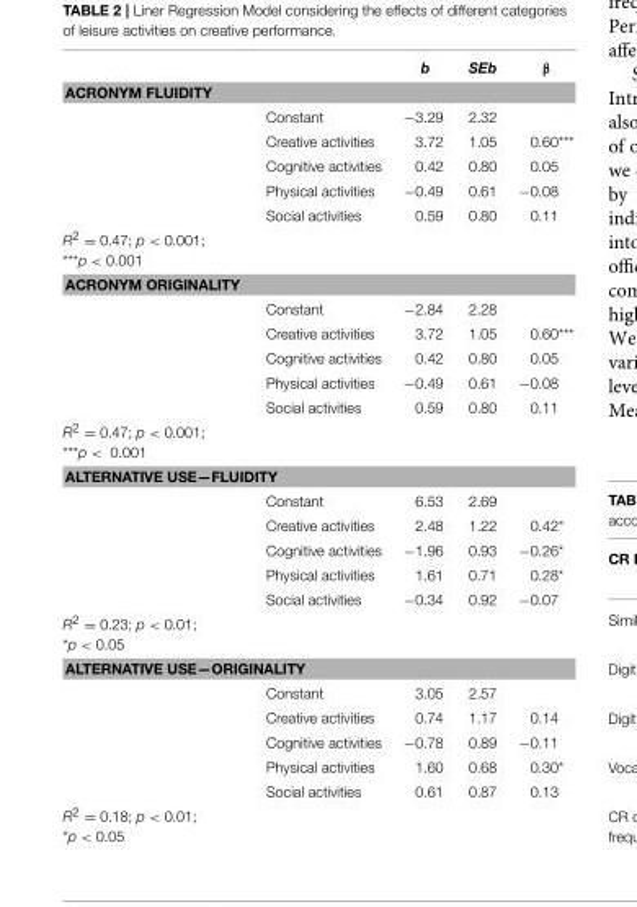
<table><thead><tr><td></td><td></td><td>b</td><td>SEb</td><td>β</td></tr><tr><td colspan="5">ACRONYM FLUIDITY</td></tr></thead><tbody><tr><td></td><td>Constant</td><td>−3.29</td><td>2.32</td><td></td></tr><tr><td></td><td>Creative activities</td><td>3.72</td><td>1.05</td><td>0.60***</td></tr><tr><td></td><td>Cognitive activities</td><td>0.42</td><td>0.80</td><td>0.05</td></tr><tr><td></td><td>Physical activities</td><td>−0.49</td><td>0.61</td><td>−0.08</td></tr><tr><td></td><td>Social activities</td><td>0.59</td><td>0.80</td><td>0.11</td></tr><tr><td colspan="5">R<sup>2</sup> = 0.47; p &lt; 0.001; ***p &lt; 0.001</td></tr><tr><td colspan="5">ACRONYM ORIGINALITY</td></tr><tr><td></td><td>Constant</td><td>−2.84</td><td>2.28</td><td></td></tr><tr><td></td><td>Creative activities</td><td>3.72</td><td>1.05</td><td>0.60***</td></tr><tr><td></td><td>Cognitive activities</td><td>0.42</td><td>0.80</td><td>0.05</td></tr><tr><td></td><td>Physical activities</td><td>−0.49</td><td>0.61</td><td>−0.08</td></tr><tr><td></td><td>Social activities</td><td>0.59</td><td>0.80</td><td>0.11</td></tr><tr><td colspan="5">R<sup>2</sup> = 0.47; p &lt; 0.001; ***p &lt; 0.001</td></tr><tr><td colspan="5">ALTERNATIVE USE—FLUIDITY</td></tr><tr><td></td><td>Constant</td><td>6.53</td><td>2.69</td><td></td></tr><tr><td></td><td>Creative activities</td><td>2.48</td><td>1.22</td><td>0.42*</td></tr><tr><td></td><td>Cognitive activities</td><td>−1.96</td><td>0.93</td><td>−0.26*</td></tr><tr><td></td><td>Physical activities</td><td>1.61</td><td>0.71</td><td>0.28*</td></tr><tr><td></td><td>Social activities</td><td>−0.34</td><td>0.92</td><td>−0.07</td></tr><tr><td colspan="5">R<sup>2</sup> = 0.23; p &lt; 0.01; *p &lt; 0.05</td></tr><tr><td colspan="5">ALTERNATIVE USE—ORIGINALITY</td></tr><tr><td></td><td>Constant</td><td>3.05</td><td>2.57</td><td></td></tr><tr><td></td><td>Creative activities</td><td>0.74</td><td>1.17</td><td>0.14</td></tr><tr><td></td><td>Cognitive activities</td><td>−0.78</td><td>0.89</td><td>−0.11</td></tr><tr><td></td><td>Physical activities</td><td>1.60</td><td>0.68</td><td>0.30*</td></tr><tr><td></td><td>Social activities</td><td>0.61</td><td>0.87</td><td>0.13</td></tr><tr><td colspan="5">R<sup>2</sup> = 0.18; p &lt; 0.01; *p &lt; 0.05</td></tr></tbody></table>